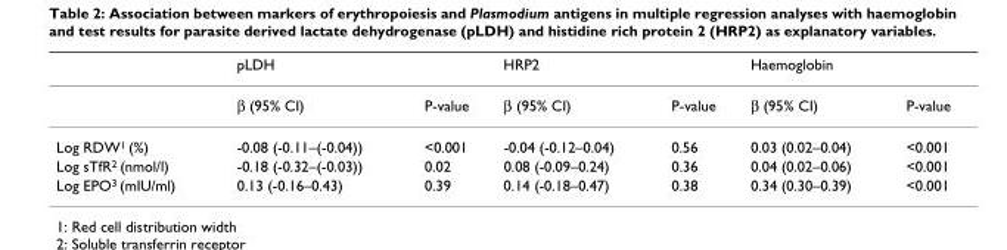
<table><thead><tr><td rowspan="2"></td><td colspan="2">pLDH</td><td colspan="2">HRP2</td><td colspan="2">Haemoglobin</td></tr><tr><td>β (95% CI)</td><td>P-value</td><td>β (95% CI)</td><td>P-value</td><td>β (95% CI)</td><td>P-value</td></tr></thead><tbody><tr><td>Log RDW<sup>1</sup> (%)</td><td>-0.08 (-0.11–(-0.04))</td><td>&lt;0.001</td><td>-0.04 (-0.12–0.04)</td><td>0.56</td><td>0.03 (0.02–0.04)</td><td>&lt;0.001</td></tr><tr><td>Log sTfR<sup>2</sup> (nmol/l)</td><td>-0.18 (-0.32–(-0.03))</td><td>0.02</td><td>0.08 (-0.09–0.24)</td><td>0.36</td><td>0.04 (0.02–0.06)</td><td>&lt;0.001</td></tr><tr><td>Log EPO<sup>3</sup> (mIU/ml)</td><td>0.13 (-0.16–0.43)</td><td>0.39</td><td>0.14 (-0.18–0.47)</td><td>0.38</td><td>0.34 (0.30–0.39)</td><td>&lt;0.001</td></tr></tbody></table>